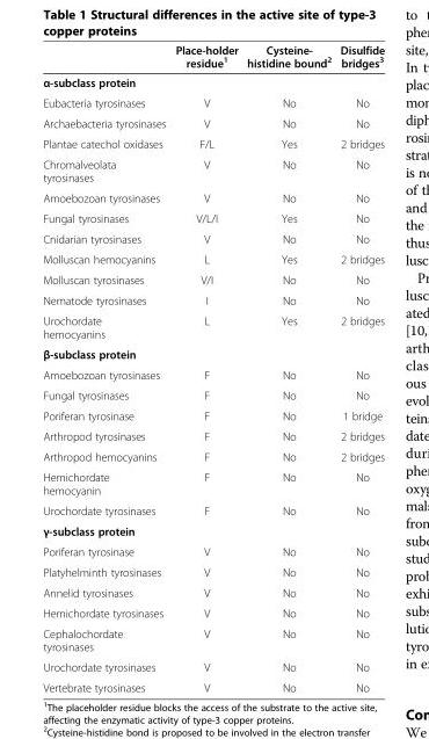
<table><thead><tr><td></td><td>Place-holder residue<sup>1</sup></td><td>Cysteine- histidine bound<sup>2</sup></td><td>Disulfide bridges<sup>3</sup></td></tr></thead><tbody><tr><td colspan="4">α-subclass protein</td></tr><tr><td>Eubacteria tyrosinases</td><td>V</td><td>No</td><td>No</td></tr><tr><td>Archaebacteria tyrosinases</td><td>V</td><td>No</td><td>No</td></tr><tr><td>Plantae catechol oxidases</td><td>F/L</td><td>Yes</td><td>2 bridges</td></tr><tr><td>Chromalveolata tyrosinases</td><td>V</td><td>No</td><td>No</td></tr><tr><td>Amoebozoan tyrosinases</td><td>V</td><td>No</td><td>No</td></tr><tr><td>Fungal tyrosinases</td><td>V/L/I</td><td>Yes</td><td>No</td></tr><tr><td>Cnidarian tyrosinases</td><td>V</td><td>No</td><td>No</td></tr><tr><td>Molluscan hemocyanins</td><td>L</td><td>Yes</td><td>2 bridges</td></tr><tr><td>Molluscan tyrosinases</td><td>V/I</td><td>No</td><td>No</td></tr><tr><td>Nematode tyrosinases</td><td>I</td><td>No</td><td>No</td></tr><tr><td>Urochordate hemocyanins</td><td>L</td><td>Yes</td><td>2 bridges</td></tr><tr><td colspan="4">β-subclass protein</td></tr><tr><td>Amoebozoan tyrosinases</td><td>F</td><td>No</td><td>No</td></tr><tr><td>Fungal tyrosinases</td><td>F</td><td>No</td><td>No</td></tr><tr><td>Poriferan tyrosinase</td><td>F</td><td>No</td><td>1 bridge</td></tr><tr><td>Arthropod tyrosinases</td><td>F</td><td>No</td><td>2 bridges</td></tr><tr><td>Arthropod hemocyanins</td><td>F</td><td>No</td><td>2 bridges</td></tr><tr><td>Hemichordate hemocyanin</td><td>F</td><td>No</td><td>No</td></tr><tr><td>Urochordate tyrosinases</td><td>F</td><td>No</td><td>No</td></tr><tr><td colspan="4">γ-subclass protein</td></tr><tr><td>Poriferan tyrosinase</td><td>V</td><td>No</td><td>No</td></tr><tr><td>Platyhelminth tyrosinases</td><td>V</td><td>No</td><td>No</td></tr><tr><td>Annelid tyrosinases</td><td>V</td><td>No</td><td>No</td></tr><tr><td>Hemichordate tyrosinases</td><td>V</td><td>No</td><td>No</td></tr><tr><td>Cephalochordate tyrosinases</td><td>V</td><td>No</td><td>No</td></tr><tr><td>Urochordate tyrosinases</td><td>V</td><td>No</td><td>No</td></tr><tr><td>Vertebrate tyrosinases</td><td>V</td><td>No</td><td>No</td></tr></tbody></table>